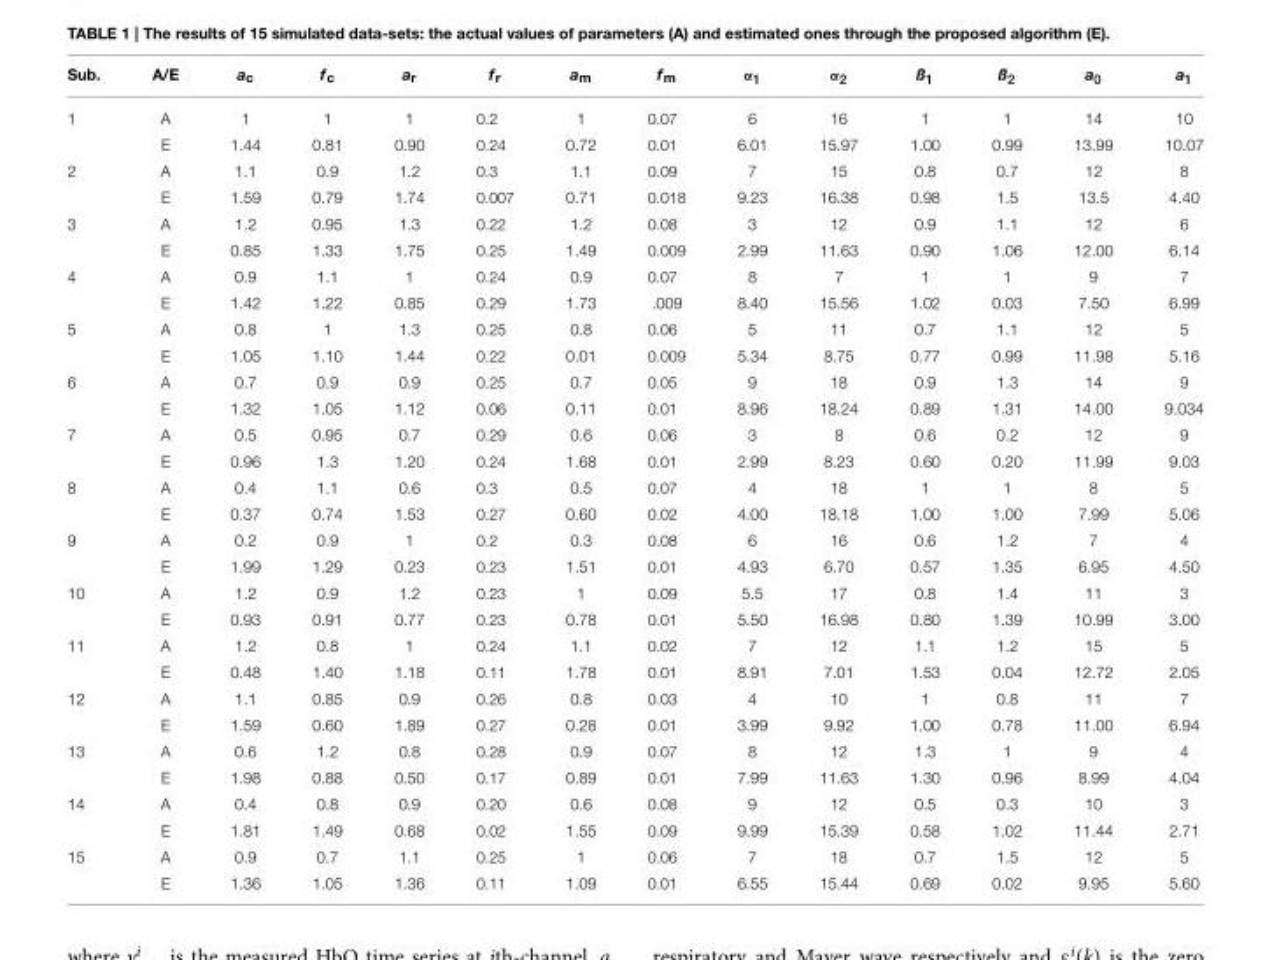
<table><thead><tr><td>Sub.</td><td>A/E</td><td>a<sub>c</sub></td><td>f<sub>c</sub></td><td>a<sub>r</sub></td><td>f<sub>r</sub></td><td>a<sub>m</sub></td><td>f<sub>m</sub></td><td>α<sub>1</sub></td><td>α<sub>2</sub></td><td>ß<sub>1</sub></td><td>ß<sub>2</sub></td><td>a<sub>0</sub></td><td>a<sub>1</sub></td></tr></thead><tbody><tr><td rowspan="2">1</td><td>A</td><td>1</td><td>1</td><td>1</td><td>0.2</td><td>1</td><td>0.07</td><td>6</td><td>16</td><td>1</td><td>1</td><td>14</td><td>10</td></tr><tr><td>E</td><td>1.44</td><td>0.81</td><td>0.90</td><td>0.24</td><td>0.72</td><td>0.01</td><td>6.01</td><td>15.97</td><td>1.00</td><td>0.99</td><td>13.99</td><td>10.07</td></tr><tr><td rowspan="2">2</td><td>A</td><td>1.1</td><td>0.9</td><td>1.2</td><td>0.3</td><td>1.1</td><td>0.09</td><td>7</td><td>15</td><td>0.8</td><td>0.7</td><td>12</td><td>8</td></tr><tr><td>E</td><td>1.59</td><td>0.79</td><td>1.74</td><td>0.007</td><td>0.71</td><td>0.018</td><td>9.23</td><td>16.38</td><td>0.98</td><td>1.5</td><td>13.5</td><td>4.40</td></tr><tr><td rowspan="2">3</td><td>A</td><td>1.2</td><td>0.95</td><td>1.3</td><td>0.22</td><td>1.2</td><td>0.08</td><td>3</td><td>12</td><td>0.9</td><td>1.1</td><td>12</td><td>6</td></tr><tr><td>E</td><td>0.85</td><td>1.33</td><td>1.75</td><td>0.25</td><td>1.49</td><td>0.009</td><td>2.99</td><td>11.63</td><td>0.90</td><td>1.06</td><td>12.00</td><td>6.14</td></tr><tr><td rowspan="2">4</td><td>A</td><td>0.9</td><td>1.1</td><td>1</td><td>0.24</td><td>0.9</td><td>0.07</td><td>8</td><td>7</td><td>1</td><td>1</td><td>9</td><td>7</td></tr><tr><td>E</td><td>1.42</td><td>1.22</td><td>0.85</td><td>0.29</td><td>1.73</td><td>.009</td><td>8.40</td><td>15.56</td><td>1.02</td><td>0.03</td><td>7.50</td><td>6.99</td></tr><tr><td rowspan="2">5</td><td>A</td><td>0.8</td><td>1</td><td>1.3</td><td>0.25</td><td>0.8</td><td>0.06</td><td>5</td><td>11</td><td>0.7</td><td>1.1</td><td>12</td><td>5</td></tr><tr><td>E</td><td>1.05</td><td>1.10</td><td>1.44</td><td>0.22</td><td>0.01</td><td>0.009</td><td>5.34</td><td>8.75</td><td>0.77</td><td>0.99</td><td>11.98</td><td>5.16</td></tr><tr><td rowspan="2">6</td><td>A</td><td>0.7</td><td>0.9</td><td>0.9</td><td>0.25</td><td>0.7</td><td>0.05</td><td>9</td><td>18</td><td>0.9</td><td>1.3</td><td>14</td><td>9</td></tr><tr><td>E</td><td>1.32</td><td>1.05</td><td>1.12</td><td>0.06</td><td>0.11</td><td>0.01</td><td>8.96</td><td>18.24</td><td>0.89</td><td>1.31</td><td>14.00</td><td>9.034</td></tr><tr><td rowspan="2">7</td><td>A</td><td>0.5</td><td>0.95</td><td>0.7</td><td>0.29</td><td>0.6</td><td>0.06</td><td>3</td><td>8</td><td>0.6</td><td>0.2</td><td>12</td><td>9</td></tr><tr><td>E</td><td>0.96</td><td>1.3</td><td>1.20</td><td>0.24</td><td>1.68</td><td>0.01</td><td>2.99</td><td>8.23</td><td>0.60</td><td>0.20</td><td>11.99</td><td>9.03</td></tr><tr><td rowspan="2">8</td><td>A</td><td>0.4</td><td>1.1</td><td>0.6</td><td>0.3</td><td>0.5</td><td>0.07</td><td>4</td><td>18</td><td>1</td><td>1</td><td>8</td><td>5</td></tr><tr><td>E</td><td>0.37</td><td>0.74</td><td>1.53</td><td>0.27</td><td>0.60</td><td>0.02</td><td>4.00</td><td>18.18</td><td>1.00</td><td>1.00</td><td>7.99</td><td>5.06</td></tr><tr><td rowspan="2">9</td><td>A</td><td>0.2</td><td>0.9</td><td>1</td><td>0.2</td><td>0.3</td><td>0.08</td><td>6</td><td>16</td><td>0.6</td><td>1.2</td><td>7</td><td>4</td></tr><tr><td>E</td><td>1.99</td><td>1.29</td><td>0.23</td><td>0.23</td><td>1.51</td><td>0.01</td><td>4.93</td><td>6.70</td><td>0.57</td><td>1.35</td><td>6.95</td><td>4.50</td></tr><tr><td rowspan="2">10</td><td>A</td><td>1.2</td><td>0.9</td><td>1.2</td><td>0.23</td><td>1</td><td>0.09</td><td>5.5</td><td>17</td><td>0.8</td><td>1.4</td><td>11</td><td>3</td></tr><tr><td>E</td><td>0.93</td><td>0.91</td><td>0.77</td><td>0.23</td><td>0.78</td><td>0.01</td><td>5.50</td><td>16.98</td><td>0.80</td><td>1.39</td><td>10.99</td><td>3.00</td></tr><tr><td rowspan="2">11</td><td>A</td><td>1.2</td><td>0.8</td><td>1</td><td>0.24</td><td>1.1</td><td>0.02</td><td>7</td><td>12</td><td>1.1</td><td>1.2</td><td>15</td><td>5</td></tr><tr><td>E</td><td>0.48</td><td>1.40</td><td>1.18</td><td>0.11</td><td>1.78</td><td>0.01</td><td>8.91</td><td>7.01</td><td>1.53</td><td>0.04</td><td>12.72</td><td>2.05</td></tr><tr><td rowspan="2">12</td><td>A</td><td>1.1</td><td>0.85</td><td>0.9</td><td>0.26</td><td>0.8</td><td>0.03</td><td>4</td><td>10</td><td>1</td><td>0.8</td><td>11</td><td>7</td></tr><tr><td>E</td><td>1.59</td><td>0.60</td><td>1.89</td><td>0.27</td><td>0.28</td><td>0.01</td><td>3.99</td><td>9.92</td><td>1.00</td><td>0.78</td><td>11.00</td><td>6.94</td></tr><tr><td rowspan="2">13</td><td>A</td><td>0.6</td><td>1.2</td><td>0.8</td><td>0.28</td><td>0.9</td><td>0.07</td><td>8</td><td>12</td><td>1.3</td><td>1</td><td>9</td><td>4</td></tr><tr><td>E</td><td>1.98</td><td>0.88</td><td>0.50</td><td>0.17</td><td>0.89</td><td>0.01</td><td>7.99</td><td>11.63</td><td>1.30</td><td>0.96</td><td>8.99</td><td>4.04</td></tr><tr><td rowspan="2">14</td><td>A</td><td>0.4</td><td>0.8</td><td>0.9</td><td>0.20</td><td>0.6</td><td>0.08</td><td>9</td><td>12</td><td>0.5</td><td>0.3</td><td>10</td><td>3</td></tr><tr><td>E</td><td>1.81</td><td>1.49</td><td>0.68</td><td>0.02</td><td>1.55</td><td>0.09</td><td>9.99</td><td>15.39</td><td>0.58</td><td>1.02</td><td>11.44</td><td>2.71</td></tr><tr><td rowspan="2">15</td><td>A</td><td>0.9</td><td>0.7</td><td>1.1</td><td>0.25</td><td>1</td><td>0.06</td><td>7</td><td>18</td><td>0.7</td><td>1.5</td><td>12</td><td>5</td></tr><tr><td>E</td><td>1.36</td><td>1.05</td><td>1.36</td><td>0.11</td><td>1.09</td><td>0.01</td><td>6.55</td><td>15.44</td><td>0.69</td><td>0.02</td><td>9.95</td><td>5.60</td></tr></tbody></table>